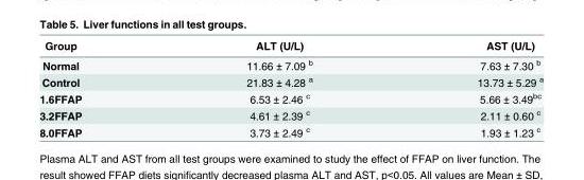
<table><thead><tr><td>Group</td><td>ALT (U/L)</td><td>AST (U/L)</td></tr></thead><tbody><tr><td>Normal</td><td>11.66 ± 7.09 <sup>b</sup></td><td>7.63 ± 7.30 <sup>b</sup></td></tr><tr><td>Control</td><td>21.83 ± 4.28 <sup>a</sup></td><td>13.73 ± 5.29 <sup>a</sup></td></tr><tr><td>1.6FFAP</td><td>6.53 ± 2.46 <sup>c</sup></td><td>5.66 ± 3.49<sup>bc</sup></td></tr><tr><td>3.2FFAP</td><td>4.61 ± 2.39 <sup>c</sup></td><td>2.11 ± 0.60 <sup>c</sup></td></tr><tr><td>8.0FFAP</td><td>3.73 ± 2.49 <sup>c</sup></td><td>1.93 ± 1.23 <sup>c</sup></td></tr></tbody></table>